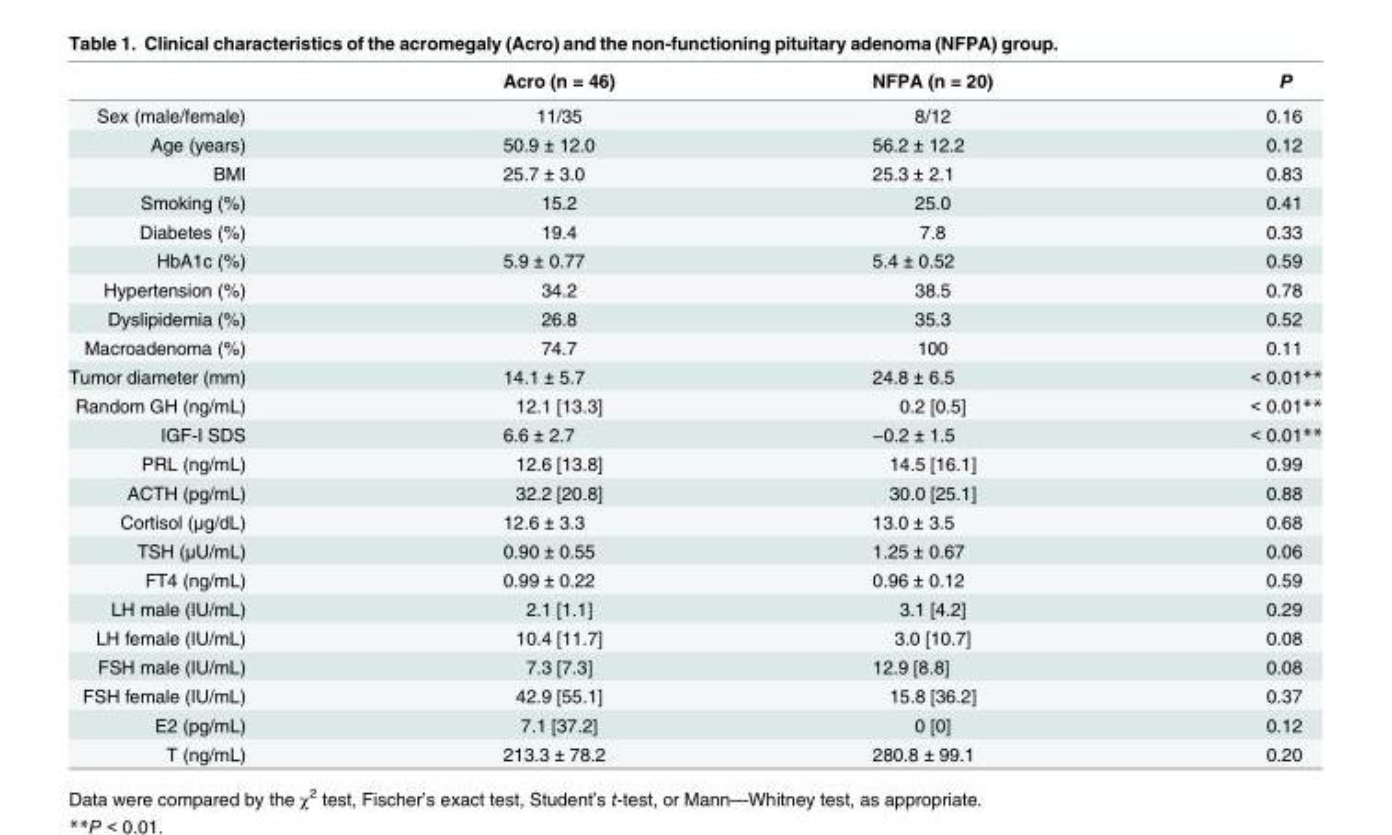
<table><thead><tr><td></td><td>Acro (n = 46)</td><td>NFPA (n = 20)</td><td>P</td></tr></thead><tbody><tr><td>Sex (male/female)</td><td>11/35</td><td>8/12</td><td>0.16</td></tr><tr><td>Age (years)</td><td>50.9 ± 12.0</td><td>56.2 ± 12.2</td><td>0.12</td></tr><tr><td>BMI</td><td>25.7 ± 3.0</td><td>25.3 ± 2.1</td><td>0.83</td></tr><tr><td>Smoking (%)</td><td>15.2</td><td>25.0</td><td>0.41</td></tr><tr><td>Diabetes (%)</td><td>19.4</td><td>7.8</td><td>0.33</td></tr><tr><td>HbA1c (%)</td><td>5.9 ± 0.77</td><td>5.4 ± 0.52</td><td>0.59</td></tr><tr><td>Hypertension (%)</td><td>34.2</td><td>38.5</td><td>0.78</td></tr><tr><td>Dyslipidemia (%)</td><td>26.8</td><td>35.3</td><td>0.52</td></tr><tr><td>Macroadenoma (%)</td><td>74.7</td><td>100</td><td>0.11</td></tr><tr><td>Tumor diameter (mm)</td><td>14.1 ± 5.7</td><td>24.8 ± 6.5</td><td>&lt; 0.01**</td></tr><tr><td>Random GH (ng/mL)</td><td>12.1 [13.3]</td><td>0.2 [0.5]</td><td>&lt; 0.01**</td></tr><tr><td>IGF-I SDS</td><td>6.6 ± 2.7</td><td>−0.2 ± 1.5</td><td>&lt; 0.01**</td></tr><tr><td>PRL (ng/mL)</td><td>12.6 [13.8]</td><td>14.5 [16.1]</td><td>0.99</td></tr><tr><td>ACTH (pg/mL)</td><td>32.2 [20.8]</td><td>30.0 [25.1]</td><td>0.88</td></tr><tr><td>Cortisol (μg/dL)</td><td>12.6 ± 3.3</td><td>13.0 ± 3.5</td><td>0.68</td></tr><tr><td>TSH (μU/mL)</td><td>0.90 ± 0.55</td><td>1.25 ± 0.67</td><td>0.06</td></tr><tr><td>FT4 (ng/mL)</td><td>0.99 ± 0.22</td><td>0.96 ± 0.12</td><td>0.59</td></tr><tr><td>LH male (IU/mL)</td><td>2.1 [1.1]</td><td>3.1 [4.2]</td><td>0.29</td></tr><tr><td>LH female (IU/mL)</td><td>10.4 [11.7]</td><td>3.0 [10.7]</td><td>0.08</td></tr><tr><td>FSH male (IU/mL)</td><td>7.3 [7.3]</td><td>12.9 [8.8]</td><td>0.08</td></tr><tr><td>FSH female (IU/mL)</td><td>42.9 [55.1]</td><td>15.8 [36.2]</td><td>0.37</td></tr><tr><td>E2 (pg/mL)</td><td>7.1 [37.2]</td><td>0 [0]</td><td>0.12</td></tr><tr><td>T (ng/mL)</td><td>213.3 ± 78.2</td><td>280.8 ± 99.1</td><td>0.20</td></tr></tbody></table>